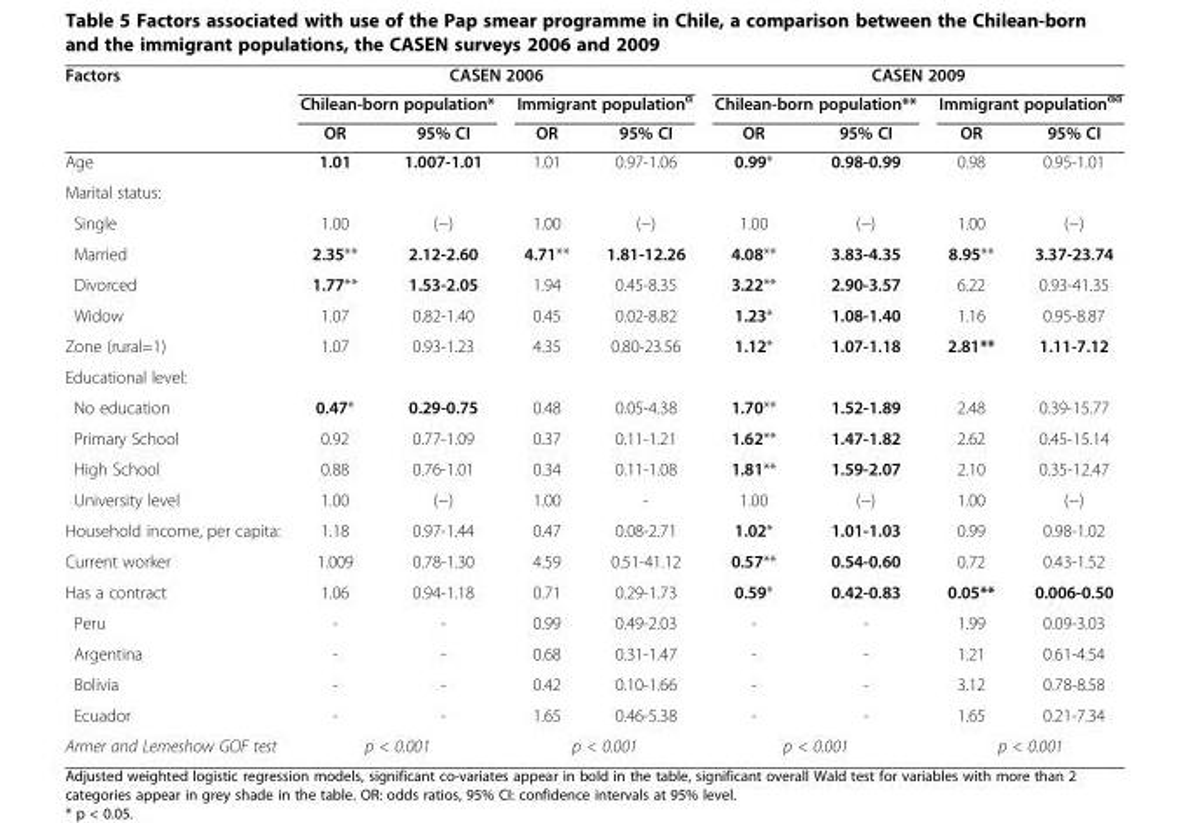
<table><thead><tr><td rowspan="3">Factors</td><td colspan="4">CASEN 2006</td><td colspan="4">CASEN 2009</td></tr><tr><td colspan="2">Chilean-born population*</td><td colspan="2">Immigrant population<sup>α</sup></td><td colspan="2">Chilean-born population**</td><td colspan="2">Immigrant population<sup>αα</sup></td></tr><tr><td>OR</td><td>95% CI</td><td>OR</td><td>95% CI</td><td>OR</td><td>95% CI</td><td>OR</td><td>95% CI</td></tr></thead><tbody><tr><td>Age</td><td>1.01</td><td>1.007-1.01</td><td>1.01</td><td>0.97-1.06</td><td>0.99*</td><td>0.98-0.99</td><td>0.98</td><td>0.95-1.01</td></tr><tr><td colspan="9">Marital status:</td></tr><tr><td>Single</td><td>1.00</td><td>(−)</td><td>1.00</td><td>(−)</td><td>1.00</td><td>(−)</td><td>1.00</td><td>(−)</td></tr><tr><td>Married</td><td>2.35**</td><td>2.12-2.60</td><td>4.71**</td><td>1.81-12.26</td><td>4.08**</td><td>3.83-4.35</td><td>8.95**</td><td>3.37-23.74</td></tr><tr><td>Divorced</td><td>1.77**</td><td>1.53-2.05</td><td>1.94</td><td>0.45-8.35</td><td>3.22**</td><td>2.90-3.57</td><td>6.22</td><td>0.93-41.35</td></tr><tr><td>Widow</td><td>1.07</td><td>0.82-1.40</td><td>0.45</td><td>0.02-8.82</td><td>1.23*</td><td>1.08-1.40</td><td>1.16</td><td>0.95-8.87</td></tr><tr><td>Zone (rural=1)</td><td>1.07</td><td>0.93-1.23</td><td>4.35</td><td>0.80-23.56</td><td>1.12*</td><td>1.07-1.18</td><td>2.81**</td><td>1.11-7.12</td></tr><tr><td colspan="9">Educational level:</td></tr><tr><td>No education</td><td>0.47*</td><td>0.29-0.75</td><td>0.48</td><td>0.05-4.38</td><td>1.70**</td><td>1.52-1.89</td><td>2.48</td><td>0.39-15.77</td></tr><tr><td>Primary School</td><td>0.92</td><td>0.77-1.09</td><td>0.37</td><td>0.11-1.21</td><td>1.62**</td><td>1.47-1.82</td><td>2.62</td><td>0.45-15.14</td></tr><tr><td>High School</td><td>0.88</td><td>0.76-1.01</td><td>0.34</td><td>0.11-1.08</td><td>1.81**</td><td>1.59-2.07</td><td>2.10</td><td>0.35-12.47</td></tr><tr><td>University level</td><td>1.00</td><td>(−)</td><td>1.00</td><td>-</td><td>1.00</td><td>(−)</td><td>1.00</td><td>(−)</td></tr><tr><td>Household income, per capita:</td><td>1.18</td><td>0.97-1.44</td><td>0.47</td><td>0.08-2.71</td><td>1.02*</td><td>1.01-1.03</td><td>0.99</td><td>0.98-1.02</td></tr><tr><td>Current worker</td><td>1.009</td><td>0.78-1.30</td><td>4.59</td><td>0.51-41.12</td><td>0.57**</td><td>0.54-0.60</td><td>0.72</td><td>0.43-1.52</td></tr><tr><td>Has a contract</td><td>1.06</td><td>0.94-1.18</td><td>0.71</td><td>0.29-1.73</td><td>0.59*</td><td>0.42-0.83</td><td>0.05**</td><td>0.006-0.50</td></tr><tr><td>Peru</td><td>-</td><td>-</td><td>0.99</td><td>0.49-2.03</td><td>-</td><td>-</td><td>1.99</td><td>0.09-3.03</td></tr><tr><td>Argentina</td><td>-</td><td>-</td><td>0.68</td><td>0.31-1.47</td><td>-</td><td>-</td><td>1.21</td><td>0.61-4.54</td></tr><tr><td>Bolivia</td><td>-</td><td>-</td><td>0.42</td><td>0.10-1.66</td><td>-</td><td>-</td><td>3.12</td><td>0.78-8.58</td></tr><tr><td>Ecuador</td><td>-</td><td>-</td><td>1.65</td><td>0.46-5.38</td><td>-</td><td>-</td><td>1.65</td><td>0.21-7.34</td></tr><tr><td>Armer and Lemeshow GOF test</td><td colspan="2">p &lt; 0.001</td><td colspan="2">p &lt; 0.001</td><td colspan="2">p &lt; 0.001</td><td colspan="2">p &lt; 0.001</td></tr></tbody></table>